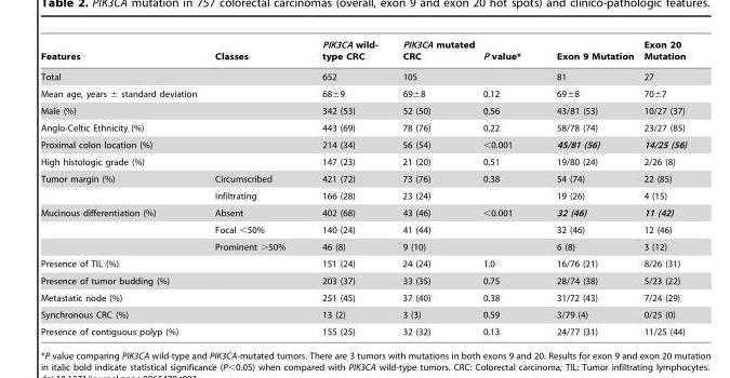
<table><thead><tr><td>Features</td><td>Classes</td><td>PIK3CA wild- type CRC</td><td>PIK3CA mutated CRC</td><td>P value*</td><td>Exon 9 Mutation</td><td>Exon 20 Mutation</td></tr></thead><tbody><tr><td>Total</td><td></td><td>652</td><td>105</td><td></td><td>81</td><td>27</td></tr><tr><td colspan="2">Mean age, years ± standard deviation</td><td>68±9</td><td>69±8</td><td>0.12</td><td>69±8</td><td>70±7</td></tr><tr><td>Male (%)</td><td></td><td>342 (53)</td><td>52 (50)</td><td>0.56</td><td>43/81 (53)</td><td>10/27 (37)</td></tr><tr><td>Anglo-Celtic Ethnicity (%)</td><td></td><td>443 (69)</td><td>78 (76)</td><td>0.22</td><td>58/78 (74)</td><td>23/27 (85)</td></tr><tr><td>Proximal colon location (%)</td><td></td><td>214 (34)</td><td>56 (54)</td><td>&lt;0.001</td><td>45/81 (56)</td><td>14/25 (56)</td></tr><tr><td>High histologic grade (%)</td><td></td><td>147 (23)</td><td>21 (20)</td><td>0.51</td><td>19/80 (24)</td><td>2/26 (8)</td></tr><tr><td rowspan="2">Tumor margin (%)</td><td>Circumscribed</td><td>421 (72)</td><td>73 (76)</td><td>0.38</td><td>54 (74)</td><td>22 (85)</td></tr><tr><td>Infiltrating</td><td>166 (28)</td><td>23 (24)</td><td></td><td>19 (26)</td><td>4 (15)</td></tr><tr><td rowspan="3">Mucinous differentiation (%)</td><td>Absent</td><td>402 (68)</td><td>43 (46)</td><td>&lt;0.001</td><td>32 (46)</td><td>11 (42)</td></tr><tr><td>Focal &lt;50%</td><td>140 (24)</td><td>41 (44)</td><td></td><td>32 (46)</td><td>12 (46)</td></tr><tr><td>Prominent &gt;50%</td><td>46 (8)</td><td>9 (10)</td><td></td><td>6 (8)</td><td>3 (12)</td></tr><tr><td>Presence of TIL (%)</td><td></td><td>151 (24)</td><td>24 (24)</td><td>1.0</td><td>16/76 (21)</td><td>8/26 (31)</td></tr><tr><td>Presence of tumor budding (%)</td><td></td><td>203 (37)</td><td>33 (35)</td><td>0.75</td><td>28/74 (38)</td><td>5/23 (22)</td></tr><tr><td>Metastatic node (%)</td><td></td><td>251 (45)</td><td>37 (40)</td><td>0.38</td><td>31/72 (43)</td><td>7/24 (29)</td></tr><tr><td>Synchronous CRC (%)</td><td></td><td>13 (2)</td><td>3 (3)</td><td>0.59</td><td>3/79 (4)</td><td>0/25 (0)</td></tr><tr><td>Presence of contiguous polyp (%)</td><td></td><td>155 (25)</td><td>32 (32)</td><td>0.13</td><td>24/77 (31)</td><td>11/25 (44)</td></tr></tbody></table>